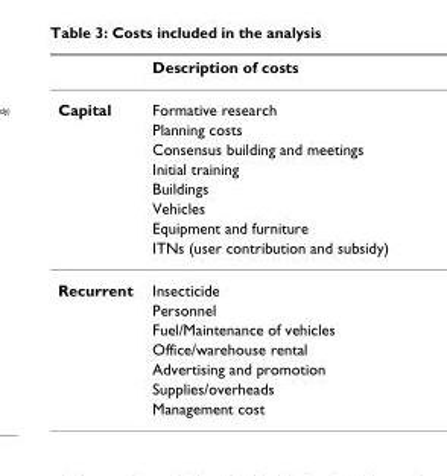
<table><thead><tr><td></td><td>Description of costs</td></tr></thead><tbody><tr><td rowspan="8">Capital</td><td>Formative research</td></tr><tr><td>Planning costs</td></tr><tr><td>Consensus building and meetings</td></tr><tr><td>Initial training</td></tr><tr><td>Buildings</td></tr><tr><td>Vehicles</td></tr><tr><td>Equipment and furniture</td></tr><tr><td>ITNs (user contribution and subsidy)</td></tr><tr><td rowspan="7">Recurrent</td><td>Insecticide</td></tr><tr><td>Personnel</td></tr><tr><td>Fuel/Maintenance of vehicles</td></tr><tr><td>Office/warehouse rental</td></tr><tr><td>Advertising and promotion</td></tr><tr><td>Supplies/overheads</td></tr><tr><td>Management cost</td></tr></tbody></table>